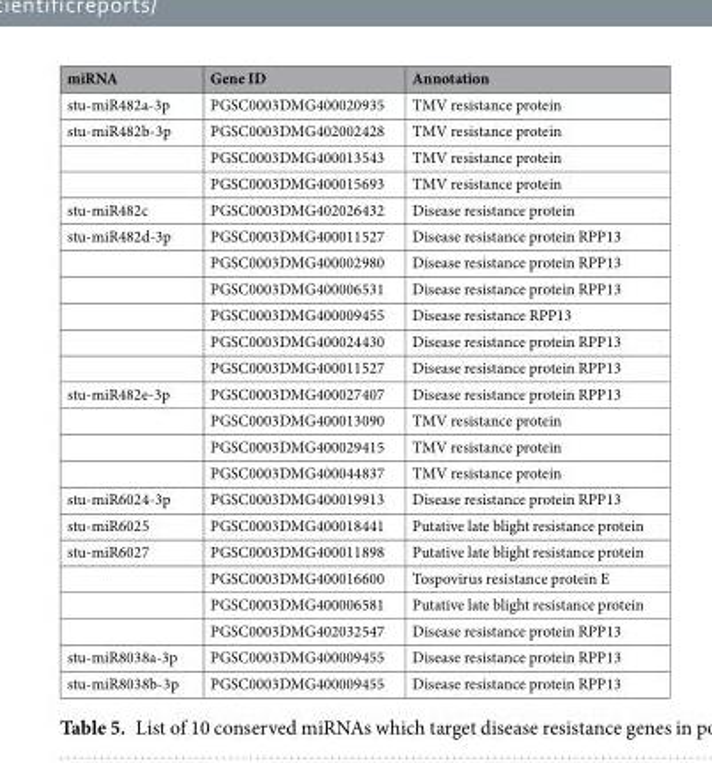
<table><thead><tr><td>miRNA</td><td>Gene ID</td><td>Annotation</td></tr></thead><tbody><tr><td>stu-miR482a-3p</td><td>PGSC0003DMG400020935</td><td>TMV resistance protein</td></tr><tr><td rowspan="3">stu-miR482b-3p</td><td>PGSC0003DMG402002428</td><td>TMV resistance protein</td></tr><tr><td>PGSC0003DMG400013543</td><td>TMV resistance protein</td></tr><tr><td>PGSC0003DMG400015693</td><td>TMV resistance protein</td></tr><tr><td>stu-miR482c</td><td>PGSC0003DMG402026432</td><td>Disease resistance protein</td></tr><tr><td rowspan="6">stu-miR482d-3p</td><td>PGSC0003DMG400011527</td><td>Disease resistance protein RPP13</td></tr><tr><td>PGSC0003DMG400002980</td><td>Disease resistance protein RPP13</td></tr><tr><td>PGSC0003DMG400006531</td><td>Disease resistance protein RPP13</td></tr><tr><td>PGSC0003DMG400009455</td><td>Disease resistance RPP13</td></tr><tr><td>PGSC0003DMG400024430</td><td>Disease resistance protein RPP13</td></tr><tr><td>PGSC0003DMG400011527</td><td>Disease resistance protein RPP13</td></tr><tr><td rowspan="4">stu-miR482e-3p</td><td>PGSC0003DMG400027407</td><td>Disease resistance protein RPP13</td></tr><tr><td>PGSC0003DMG400013090</td><td>TMV resistance protein</td></tr><tr><td>PGSC0003DMG400029415</td><td>TMV resistance protein</td></tr><tr><td>PGSC0003DMG400044837</td><td>TMV resistance protein</td></tr><tr><td>stu-miR6024-3p</td><td>PGSC0003DMG400019913</td><td>Disease resistance protein RPP13</td></tr><tr><td>stu-miR6025</td><td>PGSC0003DMG400018441</td><td>Putative late blight resistance protein</td></tr><tr><td rowspan="4">stu-miR6027</td><td>PGSC0003DMG400011898</td><td>Putative late blight resistance protein</td></tr><tr><td>PGSC0003DMG400016600</td><td>Tospovirus resistance protein E</td></tr><tr><td>PGSC0003DMG400006581</td><td>Putative late blight resistance protein</td></tr><tr><td>PGSC0003DMG402032547</td><td>Disease resistance protein RPP13</td></tr><tr><td>stu-miR8038a-3p</td><td>PGSC0003DMG400009455</td><td>Disease resistance protein RPP13</td></tr><tr><td>stu-miR8038b-3p</td><td>PGSC0003DMG400009455</td><td>Disease resistance protein RPP13</td></tr></tbody></table>